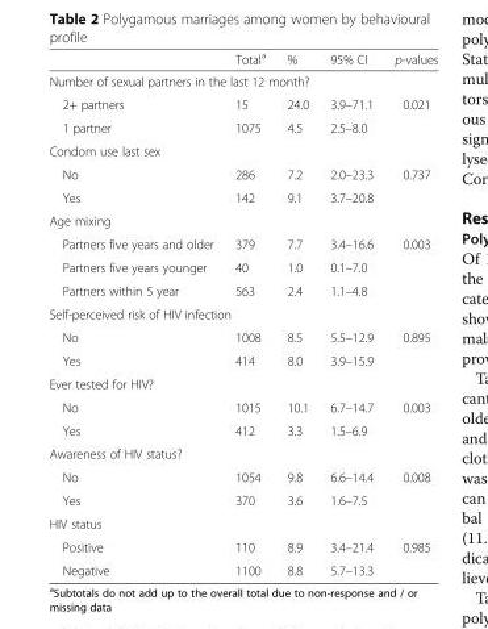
<table><thead><tr><td></td><td>Total<sup>a</sup></td><td>%</td><td>95% CI</td><td>p-values</td></tr></thead><tbody><tr><td colspan="5">Number of sexual partners in the last 12 month?</td></tr><tr><td>2+ partners</td><td>15</td><td>24.0</td><td>3.9–71.1</td><td>0.021</td></tr><tr><td>1 partner</td><td>1075</td><td>4.5</td><td>2.5–8.0</td><td></td></tr><tr><td colspan="5">Condom use last sex</td></tr><tr><td>No</td><td>286</td><td>7.2</td><td>2.0–23.3</td><td>0.737</td></tr><tr><td>Yes</td><td>142</td><td>9.1</td><td>3.7–20.8</td><td></td></tr><tr><td colspan="5">Age mixing</td></tr><tr><td>Partners five years and older</td><td>379</td><td>7.7</td><td>3.4–16.6</td><td>0.003</td></tr><tr><td>Partners five years younger</td><td>40</td><td>1.0</td><td>0.1–7.0</td><td></td></tr><tr><td>Partners within 5 year</td><td>563</td><td>2.4</td><td>1.1–4.8</td><td></td></tr><tr><td colspan="5">Self-perceived risk of HIV infection</td></tr><tr><td>No</td><td>1008</td><td>8.5</td><td>5.5–12.9</td><td>0.895</td></tr><tr><td>Yes</td><td>414</td><td>8.0</td><td>3.9–15.9</td><td></td></tr><tr><td colspan="5">Ever tested for HIV?</td></tr><tr><td>No</td><td>1015</td><td>10.1</td><td>6.7–14.7</td><td>0.003</td></tr><tr><td>Yes</td><td>412</td><td>3.3</td><td>1.5–6.9</td><td></td></tr><tr><td colspan="5">Awareness of HIV status?</td></tr><tr><td>No</td><td>1054</td><td>9.8</td><td>6.6–14.4</td><td>0.008</td></tr><tr><td>Yes</td><td>370</td><td>3.6</td><td>1.6–7.5</td><td></td></tr><tr><td colspan="5">HIV status</td></tr><tr><td>Positive</td><td>110</td><td>8.9</td><td>3.4–21.4</td><td>0.985</td></tr><tr><td>Negative</td><td>1100</td><td>8.8</td><td>5.7–13.3</td><td></td></tr></tbody></table>